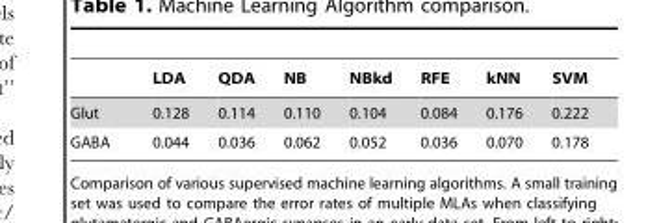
<table><thead><tr><td></td><td>LDA</td><td>QDA</td><td>NB</td><td>NBkd</td><td>RFE</td><td>kNN</td><td>SVM</td></tr></thead><tbody><tr><td>Glut</td><td>0.128</td><td>0.114</td><td>0.110</td><td>0.104</td><td>0.084</td><td>0.176</td><td>0.222</td></tr><tr><td>GABA</td><td>0.044</td><td>0.036</td><td>0.062</td><td>0.052</td><td>0.036</td><td>0.070</td><td>0.178</td></tr></tbody></table>